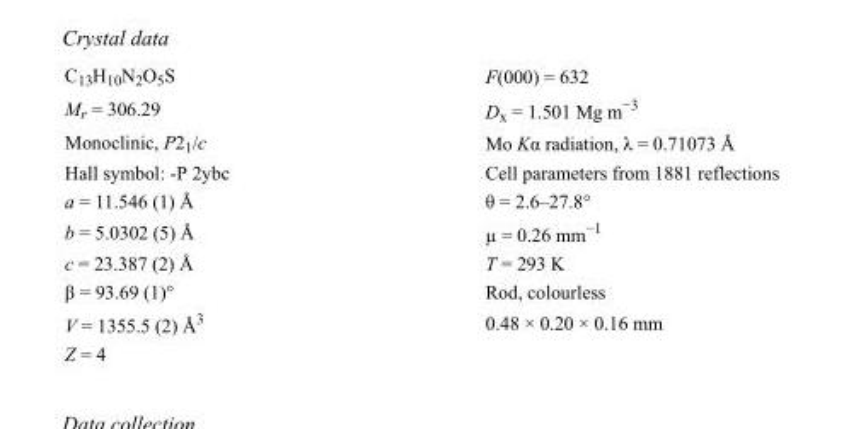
<table><tbody><tr><td>C<sub>13</sub>H<sub>10</sub>N<sub>2</sub>O<sub>5</sub>S</td><td>F(000) = 632</td></tr><tr><td>M<sub>r</sub> = 306.29</td><td>D<sub>x</sub> = 1.501 Mg m<sup>−3</sup></td></tr><tr><td>Monoclinic, P2<sub>1</sub>/c</td><td>Mo Kα radiation, λ = 0.71073 Å</td></tr><tr><td>Hall symbol: -P 2ybc</td><td>Cell parameters from 1881 reflections</td></tr><tr><td>a = 11.546 (1) Å</td><td>θ = 2.6–27.8°</td></tr><tr><td>b = 5.0302 (5) Å</td><td>µ = 0.26 mm<sup>−1</sup></td></tr><tr><td>c = 23.387 (2) Å</td><td>T = 293 K</td></tr><tr><td>β = 93.69 (1)°</td><td>Rod, colourless</td></tr><tr><td>V = 1355.5 (2) Å<sup>3</sup></td><td>0.48 × 0.20 × 0.16 mm</td></tr><tr><td>Z = 4</td><td></td></tr></tbody></table>